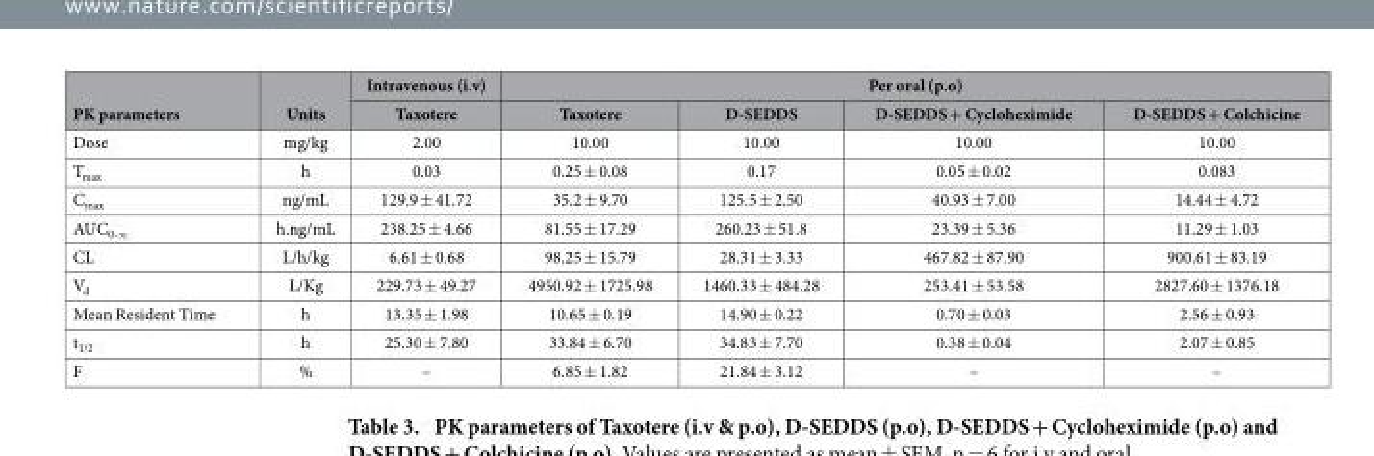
<table><thead><tr><td rowspan="2">PK parameters</td><td rowspan="2">Units</td><td rowspan="2">Intravenous (i.v) Taxotere</td><td colspan="4">Per oral (p.o)</td></tr><tr><td>Taxotere</td><td>D-SEDDS</td><td>D-SEDDS + Cycloheximide</td><td>D-SEDDS + Colchicine</td></tr></thead><tbody><tr><td>Dose</td><td>mg/kg</td><td>2.00</td><td>10.00</td><td>10.00</td><td>10.00</td><td>10.00</td></tr><tr><td>T<sub>max</sub></td><td>h</td><td>0.03</td><td>0.25 ± 0.08</td><td>0.17</td><td>0.05 ± 0.02</td><td>0.083</td></tr><tr><td>C<sub>max</sub></td><td>ng/mL</td><td>129.9 ± 41.72</td><td>35.2 ± 9.70</td><td>125.5 ± 2.50</td><td>40.93 ± 7.00</td><td>14.44 ± 4.72</td></tr><tr><td>AUC<sub>0-∞</sub></td><td>h.ng/mL</td><td>238.25 ± 4.66</td><td>81.55 ± 17.29</td><td>260.23 ± 51.8</td><td>23.39 ± 5.36</td><td>11.29 ± 1.03</td></tr><tr><td>CL</td><td>L/h/kg</td><td>6.61 ± 0.68</td><td>98.25 ± 15.79</td><td>28.31 ± 3.33</td><td>467.82 ± 87.90</td><td>900.61 ± 83.19</td></tr><tr><td>V<sub>d</sub></td><td>L/Kg</td><td>229.73 ± 49.27</td><td>4950.92 ± 1725.98</td><td>1460.33 ± 484.28</td><td>253.41 ± 53.58</td><td>2827.60 ± 1376.18</td></tr><tr><td>Mean Resident Time</td><td>h</td><td>13.35 ± 1.98</td><td>10.65 ± 0.19</td><td>14.90 ± 0.22</td><td>0.70 ± 0.03</td><td>2.56 ± 0.93</td></tr><tr><td>t<sub>1/2</sub></td><td>h</td><td>25.30 ± 7.80</td><td>33.84 ± 6.70</td><td>34.83 ± 7.70</td><td>0.38 ± 0.04</td><td>2.07 ± 0.85</td></tr><tr><td>F</td><td>%</td><td>–</td><td>6.85 ± 1.82</td><td>21.84 ± 3.12</td><td>–</td><td>–</td></tr></tbody></table>